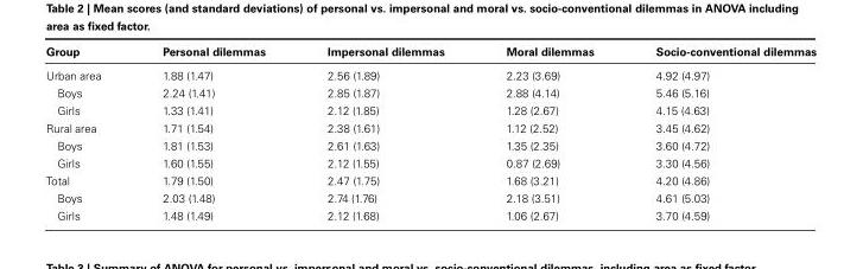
<table><thead><tr><td>Group</td><td>Personal dilemmas</td><td>Impersonal dilemmas</td><td>Moral dilemmas</td><td>Socio-conventional dilemmas</td></tr></thead><tbody><tr><td>Urban area</td><td>1.88 (1.47)</td><td>2.56 (1.89)</td><td>2.23 (3.69)</td><td>4.92 (4.97)</td></tr><tr><td>Boys</td><td>2.24 (1.41)</td><td>2.85 (1.87)</td><td>2.88 (4.14)</td><td>5.46 (5.16)</td></tr><tr><td>Girls</td><td>1.33 (1.41)</td><td>2.12 (1.85)</td><td>1.28 (2.67)</td><td>4.15 (4.63)</td></tr><tr><td>Rural area</td><td>1.71 (1.54)</td><td>2.38 (1.61)</td><td>1.12 (2.52)</td><td>3.45 (4.62)</td></tr><tr><td>Boys</td><td>1.81 (1.53)</td><td>2.61 (1.63)</td><td>1.35 (2.35)</td><td>3.60 (4.72)</td></tr><tr><td>Girls</td><td>1.60 (1.55)</td><td>2.12 (1.55)</td><td>0.87 (2.69)</td><td>3.30 (4.56)</td></tr><tr><td>Total</td><td>1.79 (1.50)</td><td>2.47 (1.75)</td><td>1.68 (3.21)</td><td>4.20 (4.86)</td></tr><tr><td>Boys</td><td>2.03 (1.48)</td><td>2.74 (1.76)</td><td>2.18 (3.51)</td><td>4.61 (5.03)</td></tr><tr><td>Girls</td><td>1.48 (1.49)</td><td>2.12 (1.68)</td><td>1.06 (2.67)</td><td>3.70 (4.59)</td></tr></tbody></table>